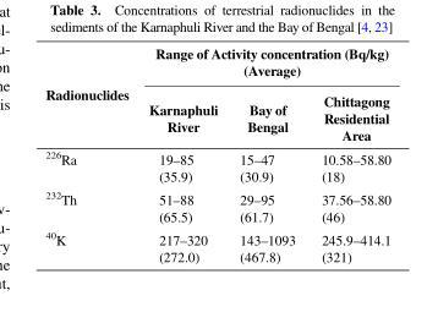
<table><thead><tr><td rowspan="2">Radionuclides</td><td colspan="3">Range of Activity concentration (Bq/kg) (Average)</td></tr><tr><td>Karnaphuli River</td><td>Bay of Bengal</td><td>Chittagong Residential Area</td></tr></thead><tbody><tr><td><sup>226</sup>Ra</td><td>19–85 (35.9)</td><td>15–47 (30.9)</td><td>10.58–58.80 (18)</td></tr><tr><td><sup>232</sup>Th</td><td>51–88 (65.5)</td><td>29–95 (61.7)</td><td>37.56–58.80 (46)</td></tr><tr><td><sup>40</sup>K</td><td>217–320 (272.0)</td><td>143–1093 (467.8)</td><td>245.9–414.1 (321)</td></tr></tbody></table>